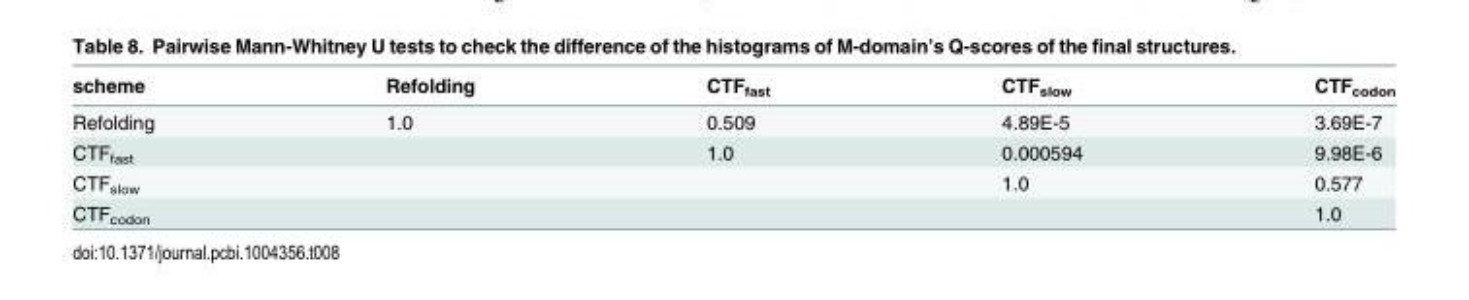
<table><thead><tr><td>scheme</td><td>Refolding</td><td>CTF<sub>fast</sub></td><td>CTF<sub>slow</sub></td><td>CTF<sub>codon</sub></td></tr></thead><tbody><tr><td>Refolding</td><td>1.0</td><td>0.509</td><td>4.89E-5</td><td>3.69E-7</td></tr><tr><td>CTF<sub>fast</sub></td><td></td><td>1.0</td><td>0.000594</td><td>9.98E-6</td></tr><tr><td>CTF<sub>slow</sub></td><td></td><td></td><td>1.0</td><td>0.577</td></tr><tr><td>CTF<sub>codon</sub></td><td></td><td></td><td></td><td>1.0</td></tr></tbody></table>